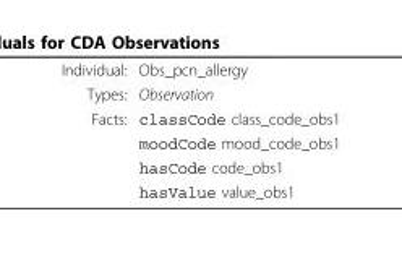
<table><tbody><tr><td>Individual:</td><td>Obs_pcn_allergy</td></tr><tr><td>Types:</td><td>Observation</td></tr><tr><td rowspan="4">Facts:</td><td>classCode class_code_obs1</td></tr><tr><td>moodCode mood_code_obs1</td></tr><tr><td>hasCode code_obs1</td></tr><tr><td>hasValue value_obs1</td></tr></tbody></table>